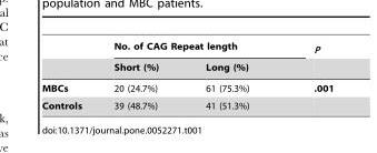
<table><thead><tr><td rowspan="2"></td><td colspan="2">No. of CAG Repeat length</td><td rowspan="2">P</td></tr><tr><td>Short (%)</td><td>Long (%)</td></tr></thead><tbody><tr><td>MBCs</td><td>20 (24.7%)</td><td>61 (75.3%)</td><td>.001</td></tr><tr><td>Controls</td><td>39 (48.7%)</td><td>41 (51.3%)</td><td></td></tr></tbody></table>